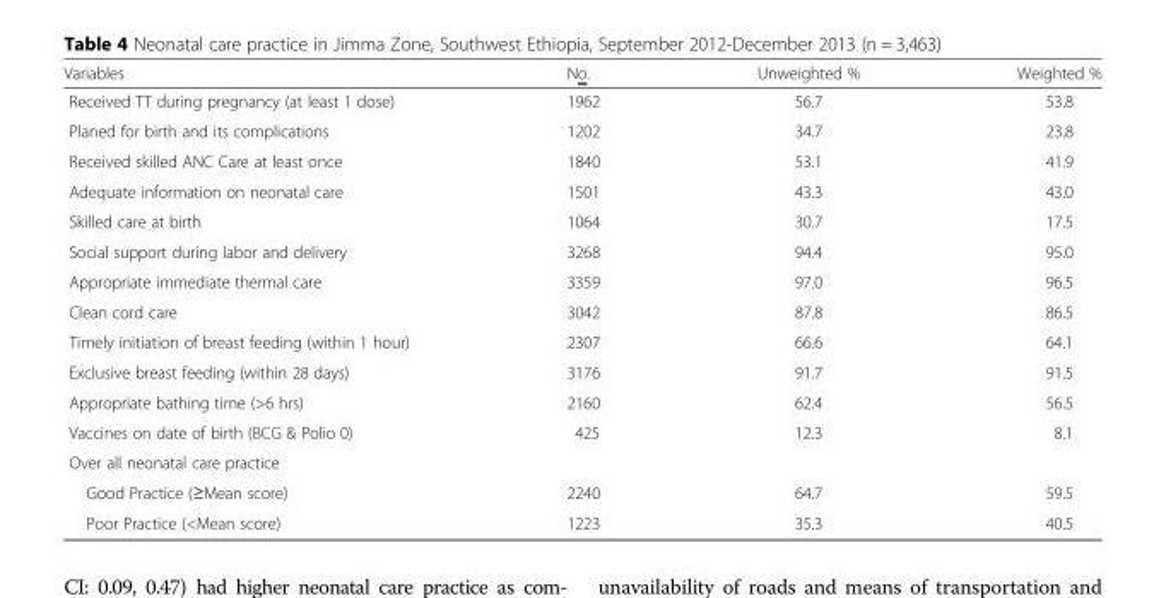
<table><thead><tr><td>Variables</td><td>No.</td><td>Unweighted %</td><td>Weighted %</td></tr></thead><tbody><tr><td>Received TT during pregnancy (at least 1 dose)</td><td>1962</td><td>56.7</td><td>53.8</td></tr><tr><td>Planed for birth and its complications</td><td>1202</td><td>34.7</td><td>23.8</td></tr><tr><td>Received skilled ANC Care at least once</td><td>1840</td><td>53.1</td><td>41.9</td></tr><tr><td>Adequate information on neonatal care</td><td>1501</td><td>43.3</td><td>43.0</td></tr><tr><td>Skilled care at birth</td><td>1064</td><td>30.7</td><td>17.5</td></tr><tr><td>Social support during labor and delivery</td><td>3268</td><td>94.4</td><td>95.0</td></tr><tr><td>Appropriate immediate thermal care</td><td>3359</td><td>97.0</td><td>96.5</td></tr><tr><td>Clean cord care</td><td>3042</td><td>87.8</td><td>86.5</td></tr><tr><td>Timely initiation of breast feeding (within 1 hour)</td><td>2307</td><td>66.6</td><td>64.1</td></tr><tr><td>Exclusive breast feeding (within 28 days)</td><td>3176</td><td>91.7</td><td>91.5</td></tr><tr><td>Appropriate bathing time (&gt;6 hrs)</td><td>2160</td><td>62.4</td><td>56.5</td></tr><tr><td>Vaccines on date of birth (BCG &amp; Polio 0)</td><td>425</td><td>12.3</td><td>8.1</td></tr><tr><td colspan="4">Over all neonatal care practice</td></tr><tr><td>Good Practice (≥Mean score)</td><td>2240</td><td>64.7</td><td>59.5</td></tr><tr><td>Poor Practice (&lt;Mean score)</td><td>1223</td><td>35.3</td><td>40.5</td></tr></tbody></table>